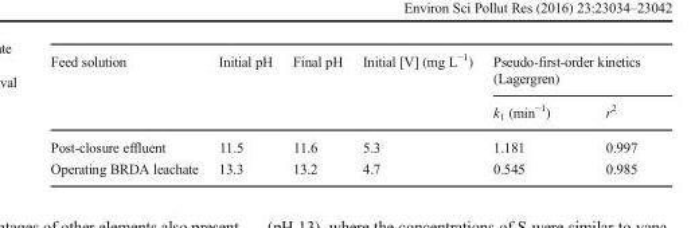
<table><thead><tr><td rowspan="2">Feed solution</td><td rowspan="2">Initial pH</td><td rowspan="2">Final pH</td><td rowspan="2">Initial [V] (mg L<sup>−1</sup>)</td><td colspan="2">Pseudo-first-order kinetics (Lagergren)</td></tr><tr><td>k<sub>1</sub> (min<sup>−1</sup>)</td><td>r<sup>2</sup></td></tr></thead><tbody><tr><td>Post-closure effluent</td><td>11.5</td><td>11.6</td><td>5.3</td><td>1.181</td><td>0.997</td></tr><tr><td>Operating BRDA leachate</td><td>13.3</td><td>13.2</td><td>4.7</td><td>0.545</td><td>0.985</td></tr></tbody></table>